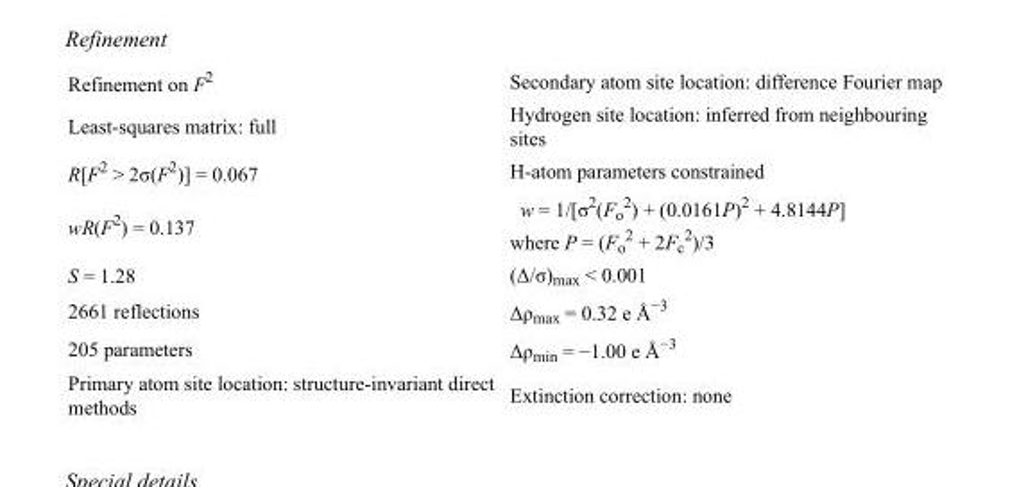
<table><tbody><tr><td>Refinement on F<sup>2</sup></td><td>Secondary atom site location: difference Fourier map</td></tr><tr><td>Least-squares matrix: full</td><td>Hydrogen site location: inferred from neighbouring sites</td></tr><tr><td>R[F<sup>2</sup> &gt; 2σ(F<sup>2</sup>)] = 0.067</td><td>H-atom parameters constrained</td></tr><tr><td>wR(F<sup>2</sup>) = 0.137</td><td>w = 1/[σ<sup>2</sup>(F<sub>o</sub> <sup>2</sup>) + (0.0161P)<sup>2</sup> + 4.8144P] where P = (F<sub>o</sub> <sup>2</sup> + 2F<sub>c</sub> <sup>2</sup>)/3</td></tr><tr><td>S = 1.28</td><td>(Δ/σ)<sub>max</sub> &lt; 0.001</td></tr><tr><td>2661 reflections</td><td>Δρ<sub>max</sub> = 0.32 e Å<sup>−3</sup></td></tr><tr><td>205 parameters</td><td>Δρ<sub>min</sub> = −1.00 e Å<sup>−3</sup></td></tr><tr><td>Primary atom site location: structure-invariant direct methods</td><td>Extinction correction: none</td></tr></tbody></table>